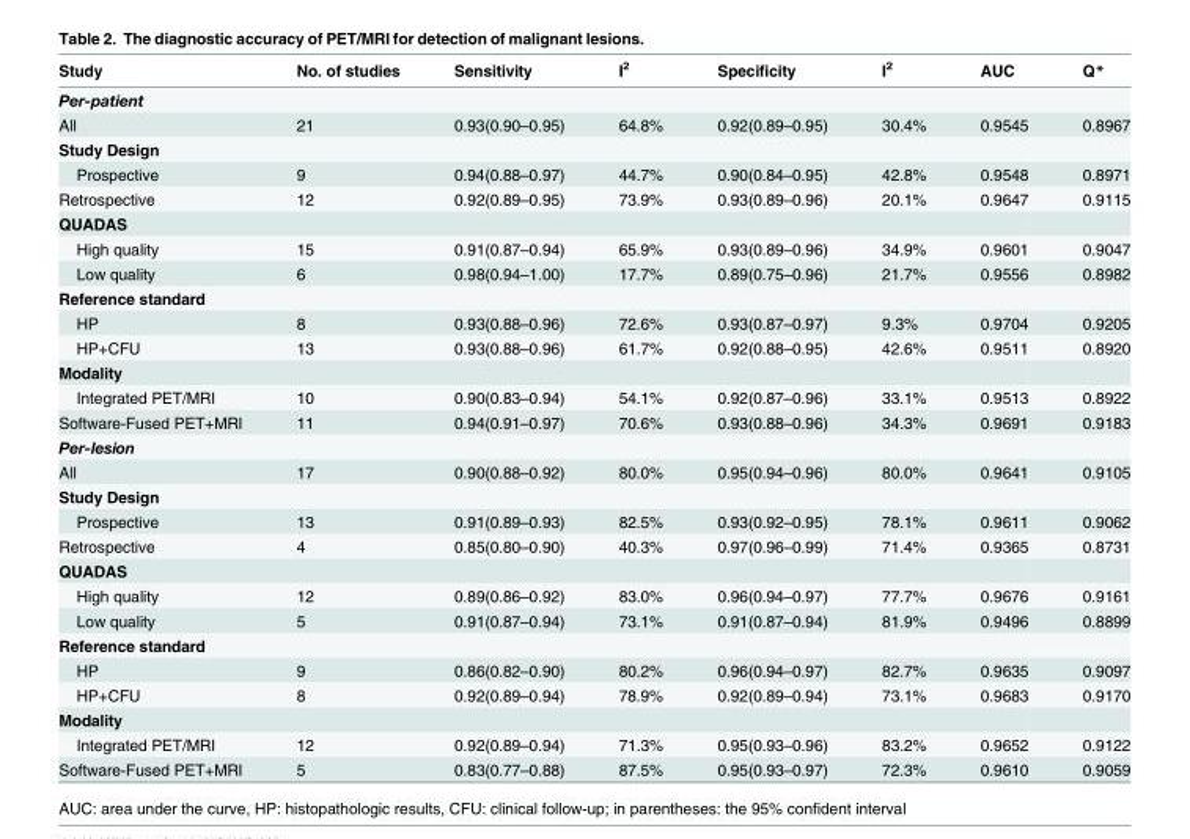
<table><thead><tr><td>Study</td><td>No. of studies</td><td>Sensitivity</td><td>I<sup>2</sup></td><td>Specificity</td><td>I<sup>2</sup></td><td>AUC</td><td>Q*</td></tr></thead><tbody><tr><td colspan="8">Per-patient</td></tr><tr><td>All</td><td>21</td><td>0.93(0.90–0.95)</td><td>64.8%</td><td>0.92(0.89–0.95)</td><td>30.4%</td><td>0.9545</td><td>0.8967</td></tr><tr><td colspan="8">Study Design</td></tr><tr><td>Prospective</td><td>9</td><td>0.94(0.88–0.97)</td><td>44.7%</td><td>0.90(0.84–0.95)</td><td>42.8%</td><td>0.9548</td><td>0.8971</td></tr><tr><td>Retrospective</td><td>12</td><td>0.92(0.89–0.95)</td><td>73.9%</td><td>0.93(0.89–0.96)</td><td>20.1%</td><td>0.9647</td><td>0.9115</td></tr><tr><td colspan="8">QUADAS</td></tr><tr><td>High quality</td><td>15</td><td>0.91(0.87–0.94)</td><td>65.9%</td><td>0.93(0.89–0.96)</td><td>34.9%</td><td>0.9601</td><td>0.9047</td></tr><tr><td>Low quality</td><td>6</td><td>0.98(0.94–1.00)</td><td>17.7%</td><td>0.89(0.75–0.96)</td><td>21.7%</td><td>0.9556</td><td>0.8982</td></tr><tr><td colspan="8">Reference standard</td></tr><tr><td>HP</td><td>8</td><td>0.93(0.88–0.96)</td><td>72.6%</td><td>0.93(0.87–0.97)</td><td>9.3%</td><td>0.9704</td><td>0.9205</td></tr><tr><td>HP+CFU</td><td>13</td><td>0.93(0.88–0.96)</td><td>61.7%</td><td>0.92(0.88–0.95)</td><td>42.6%</td><td>0.9511</td><td>0.8920</td></tr><tr><td colspan="8">Modality</td></tr><tr><td>Integrated PET/MRI</td><td>10</td><td>0.90(0.83–0.94)</td><td>54.1%</td><td>0.92(0.87–0.96)</td><td>33.1%</td><td>0.9513</td><td>0.8922</td></tr><tr><td>Software-Fused PET+MRI</td><td>11</td><td>0.94(0.91–0.97)</td><td>70.6%</td><td>0.93(0.88–0.96)</td><td>34.3%</td><td>0.9691</td><td>0.9183</td></tr><tr><td colspan="8">Per-lesion</td></tr><tr><td>All</td><td>17</td><td>0.90(0.88–0.92)</td><td>80.0%</td><td>0.95(0.94–0.96)</td><td>80.0%</td><td>0.9641</td><td>0.9105</td></tr><tr><td colspan="8">Study Design</td></tr><tr><td>Prospective</td><td>13</td><td>0.91(0.89–0.93)</td><td>82.5%</td><td>0.93(0.92–0.95)</td><td>78.1%</td><td>0.9611</td><td>0.9062</td></tr><tr><td>Retrospective</td><td>4</td><td>0.85(0.80–0.90)</td><td>40.3%</td><td>0.97(0.96–0.99)</td><td>71.4%</td><td>0.9365</td><td>0.8731</td></tr><tr><td colspan="8">QUADAS</td></tr><tr><td>High quality</td><td>12</td><td>0.89(0.86–0.92)</td><td>83.0%</td><td>0.96(0.94–0.97)</td><td>77.7%</td><td>0.9676</td><td>0.9161</td></tr><tr><td>Low quality</td><td>5</td><td>0.91(0.87–0.94)</td><td>73.1%</td><td>0.91(0.87–0.94)</td><td>81.9%</td><td>0.9496</td><td>0.8899</td></tr><tr><td colspan="8">Reference standard</td></tr><tr><td>HP</td><td>9</td><td>0.86(0.82–0.90)</td><td>80.2%</td><td>0.96(0.94–0.97)</td><td>82.7%</td><td>0.9635</td><td>0.9097</td></tr><tr><td>HP+CFU</td><td>8</td><td>0.92(0.89–0.94)</td><td>78.9%</td><td>0.92(0.89–0.94)</td><td>73.1%</td><td>0.9683</td><td>0.9170</td></tr><tr><td colspan="8">Modality</td></tr><tr><td>Integrated PET/MRI</td><td>12</td><td>0.92(0.89–0.94)</td><td>71.3%</td><td>0.95(0.93–0.96)</td><td>83.2%</td><td>0.9652</td><td>0.9122</td></tr><tr><td>Software-Fused PET+MRI</td><td>5</td><td>0.83(0.77–0.88)</td><td>87.5%</td><td>0.95(0.93–0.97)</td><td>72.3%</td><td>0.9610</td><td>0.9059</td></tr></tbody></table>